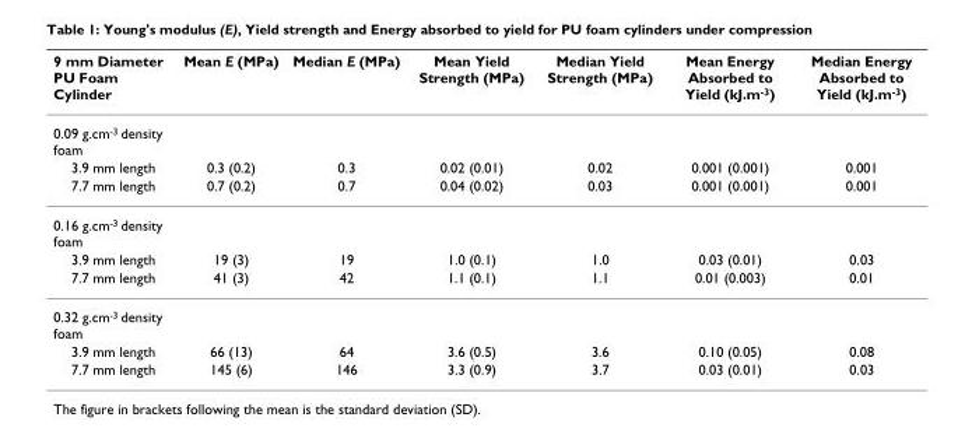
<table><thead><tr><td>9 mm Diameter PU Foam Cylinder</td><td>Mean E (MPa)</td><td>Median E (MPa)</td><td>Mean Yield Strength (MPa)</td><td>Median Yield Strength (MPa)</td><td>Mean Energy Absorbed to Yield (kJ.m<sup>-3</sup>)</td><td>Median Energy Absorbed to Yield (kJ.m<sup>-3</sup>)</td></tr></thead><tbody><tr><td colspan="7">0.09 g.cm<sup>-3</sup> density foam</td></tr><tr><td>3.9 mm length</td><td>0.3 (0.2)</td><td>0.3</td><td>0.02 (0.01)</td><td>0.02</td><td>0.001 (0.001)</td><td>0.001</td></tr><tr><td>7.7 mm length</td><td>0.7 (0.2)</td><td>0.7</td><td>0.04 (0.02)</td><td>0.03</td><td>0.001 (0.001)</td><td>0.001</td></tr><tr><td colspan="7">0.16 g.cm<sup>-3</sup> density foam</td></tr><tr><td>3.9 mm length</td><td>19 (3)</td><td>19</td><td>1.0 (0.1)</td><td>1.0</td><td>0.03 (0.01)</td><td>0.03</td></tr><tr><td>7.7 mm length</td><td>41 (3)</td><td>42</td><td>1.1 (0.1)</td><td>1.1</td><td>0.01 (0.003)</td><td>0.01</td></tr><tr><td colspan="7">0.32 g.cm<sup>-3</sup> density foam</td></tr><tr><td>3.9 mm length</td><td>66 (13)</td><td>64</td><td>3.6 (0.5)</td><td>3.6</td><td>0.10 (0.05)</td><td>0.08</td></tr><tr><td>7.7 mm length</td><td>145 (6)</td><td>146</td><td>3.3 (0.9)</td><td>3.7</td><td>0.03 (0.01)</td><td>0.03</td></tr></tbody></table>